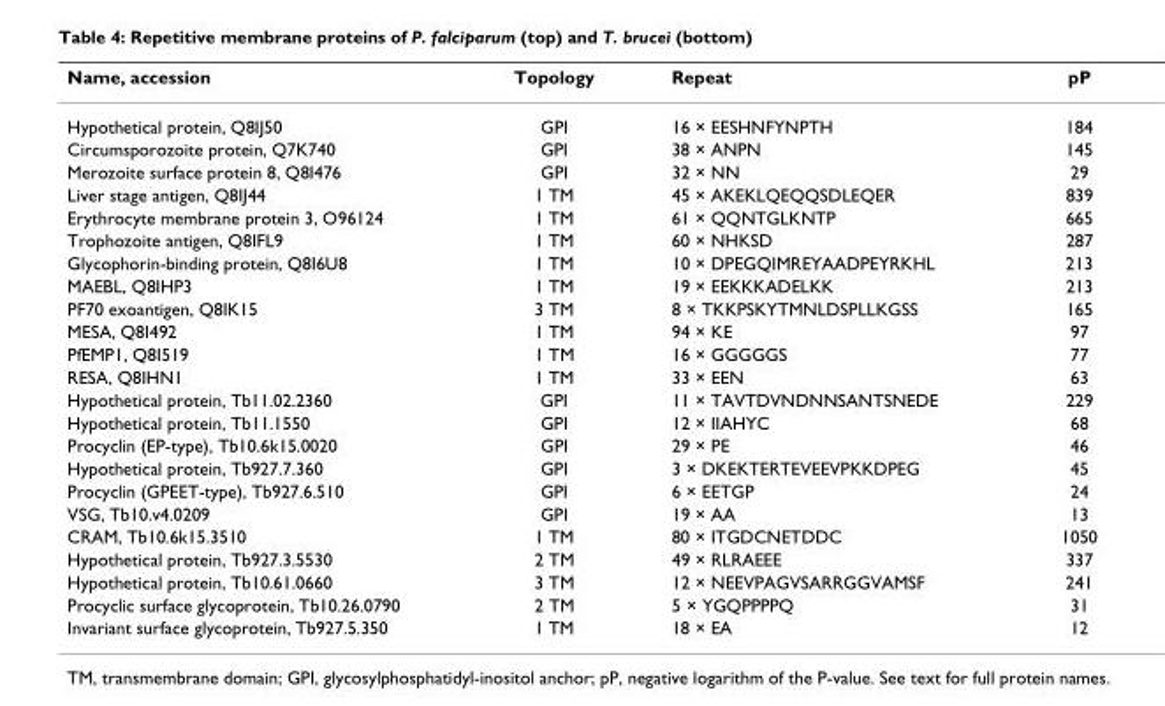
<table><thead><tr><td>Name, accession</td><td>Topology</td><td>Repeat</td><td>pP</td></tr></thead><tbody><tr><td>Hypothetical protein, Q8IJ50</td><td>GPI</td><td>16 × EESHNFYNPTH</td><td>184</td></tr><tr><td>Circumsporozoite protein, Q7K740</td><td>GPI</td><td>38 × ANPN</td><td>145</td></tr><tr><td>Merozoite surface protein 8, Q8I476</td><td>GPI</td><td>32 × NN</td><td>29</td></tr><tr><td>Liver stage antigen, Q8IJ44</td><td>1 TM</td><td>45 × AKEKLQEQQSDLEQER</td><td>839</td></tr><tr><td>Erythrocyte membrane protein 3, O96124</td><td>1 TM</td><td>61 × QQNTGLKNTP</td><td>665</td></tr><tr><td>Trophozoite antigen, Q8IFL9</td><td>1 TM</td><td>60 × NHKSD</td><td>287</td></tr><tr><td>Glycophorin-binding protein, Q8I6U8</td><td>1 TM</td><td>10 × DPEGQIMREYAADPEYRKHL</td><td>213</td></tr><tr><td>MAEBL, Q8IHP3</td><td>1 TM</td><td>19 × EEKKKADELKK</td><td>213</td></tr><tr><td>PF70 exoantigen, Q8IK15</td><td>3 TM</td><td>8 × TKKPSKYTMNLDSPLLKGSS</td><td>165</td></tr><tr><td>MESA, Q8I492</td><td>1 TM</td><td>94 × KE</td><td>97</td></tr><tr><td>PfEMP1, Q8I519</td><td>1 TM</td><td>16 × GGGGGS</td><td>77</td></tr><tr><td>RESA, Q8IHN1</td><td>1 TM</td><td>33 × EEN</td><td>63</td></tr><tr><td>Hypothetical protein, Tb11.02.2360</td><td>GPI</td><td>11 × TAVTDVNDNNSANTSNEDE</td><td>229</td></tr><tr><td>Hypothetical protein, Tb11.1550</td><td>GPI</td><td>12 × IIAHYC</td><td>68</td></tr><tr><td>Procyclin (EP-type), Tb10.6k15.0020</td><td>GPI</td><td>29 × PE</td><td>46</td></tr><tr><td>Hypothetical protein, Tb927.7.360</td><td>GPI</td><td>3 × DKEKTERTEVEEVPKKDPEG</td><td>45</td></tr><tr><td>Procyclin (GPEET-type), Tb927.6.510</td><td>GPI</td><td>6 × EETGP</td><td>24</td></tr><tr><td>VSG, Tb10.v4.0209</td><td>GPI</td><td>19 × AA</td><td>13</td></tr><tr><td>CRAM, Tb10.6k15.3510</td><td>1 TM</td><td>80 × ITGDCNETDDC</td><td>1050</td></tr><tr><td>Hypothetical protein, Tb927.3.5530</td><td>2 TM</td><td>49 × RLRAEEE</td><td>337</td></tr><tr><td>Hypothetical protein, Tb10.61.0660</td><td>3 TM</td><td>12 × NEEVPAGVSARRGGVAMSF</td><td>241</td></tr><tr><td>Procyclic surface glycoprotein, Tb10.26.0790</td><td>2 TM</td><td>5 × YGQPPPPQ</td><td>31</td></tr><tr><td>Invariant surface glycoprotein, Tb927.5.350</td><td>1 TM</td><td>18 × EA</td><td>12</td></tr></tbody></table>